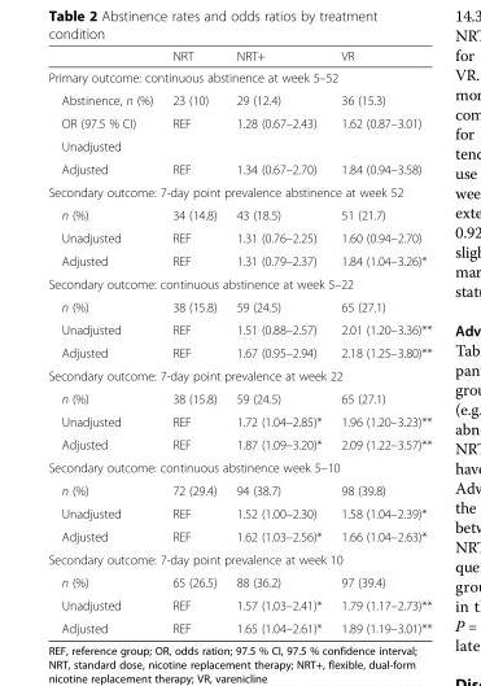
<table><thead><tr><td></td><td>NRT</td><td>NRT+</td><td>VR</td></tr></thead><tbody><tr><td colspan="4">Primary outcome: continuous abstinence at week 5–52</td></tr><tr><td>Abstinence, n (%)</td><td>23 (10)</td><td>29 (12.4)</td><td>36 (15.3)</td></tr><tr><td>OR (97.5 % CI)</td><td rowspan="2">REF</td><td rowspan="2">1.28 (0.67–2.43)</td><td rowspan="2">1.62 (0.87–3.01)</td></tr><tr><td>Unadjusted</td></tr><tr><td>Adjusted</td><td>REF</td><td>1.34 (0.67–2.70)</td><td>1.84 (0.94–3.58)</td></tr><tr><td colspan="4">Secondary outcome: 7-day point prevalence abstinence at week 52</td></tr><tr><td>n (%)</td><td>34 (14.8)</td><td>43 (18.5)</td><td>51 (21.7)</td></tr><tr><td>Unadjusted</td><td>REF</td><td>1.31 (0.76–2.25)</td><td>1.60 (0.94–2.70)</td></tr><tr><td>Adjusted</td><td>REF</td><td>1.31 (0.79–2.37)</td><td>1.84 (1.04–3.26)*</td></tr><tr><td colspan="4">Secondary outcome: continuous abstinence at week 5–22</td></tr><tr><td>n (%)</td><td>38 (15.8)</td><td>59 (24.5)</td><td>65 (27.1)</td></tr><tr><td>Unadjusted</td><td>REF</td><td>1.51 (0.88–2.57)</td><td>2.01 (1.20–3.36)**</td></tr><tr><td>Adjusted</td><td>REF</td><td>1.67 (0.95–2.94)</td><td>2.18 (1.25–3.80)**</td></tr><tr><td colspan="4">Secondary outcome: 7-day point prevalence at week 22</td></tr><tr><td>n (%)</td><td>38 (15.8)</td><td>59 (24.5)</td><td>65 (27.1)</td></tr><tr><td>Unadjusted</td><td>REF</td><td>1.72 (1.04–2.85)*</td><td>1.96 (1.20–3.23)**</td></tr><tr><td>Adjusted</td><td>REF</td><td>1.87 (1.09–3.20)*</td><td>2.09 (1.22–3.57)**</td></tr><tr><td colspan="4">Secondary outcome: continuous abstinence week 5–10</td></tr><tr><td>n (%)</td><td>72 (29.4)</td><td>94 (38.7)</td><td>98 (39.8)</td></tr><tr><td>Unadjusted</td><td>REF</td><td>1.52 (1.00–2.30)</td><td>1.58 (1.04–2.39)*</td></tr><tr><td>Adjusted</td><td>REF</td><td>1.62 (1.03–2.56)*</td><td>1.66 (1.04–2.63)*</td></tr><tr><td colspan="4">Secondary outcome: 7-day point prevalence at week 10</td></tr><tr><td>n (%)</td><td>65 (26.5)</td><td>88 (36.2)</td><td>97 (39.4)</td></tr><tr><td>Unadjusted</td><td>REF</td><td>1.57 (1.03–2.41)*</td><td>1.79 (1.17–2.73)**</td></tr><tr><td>Adjusted</td><td>REF</td><td>1.65 (1.04–2.61)*</td><td>1.89 (1.19–3.01)**</td></tr></tbody></table>